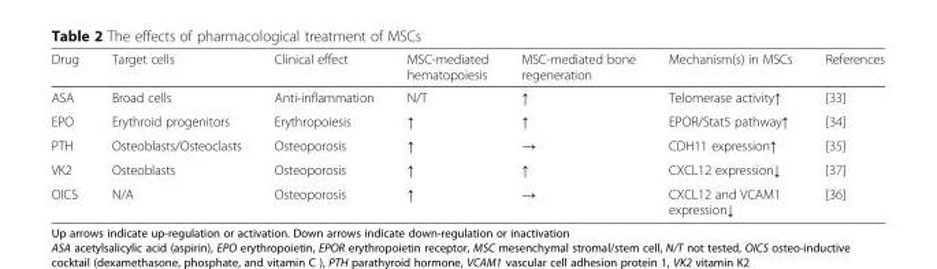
<table><thead><tr><td>Drug</td><td>Target cells</td><td>Clinical effect</td><td>MSC-mediated hematopoiesis</td><td>MSC-mediated bone regeneration</td><td>Mechanism(s) in MSCs</td><td>References</td></tr></thead><tbody><tr><td>ASA</td><td>Broad cells</td><td>Anti-inflammation</td><td>N/T</td><td>↑</td><td>Telomerase activity↑</td><td>[33]</td></tr><tr><td>EPO</td><td>Erythroid progenitors</td><td>Erythropoiesis</td><td>↑</td><td>↑</td><td>EPOR/Stat5 pathway↑</td><td>[34]</td></tr><tr><td>PTH</td><td>Osteoblasts/Osteoclasts</td><td>Osteoporosis</td><td>↑</td><td>→</td><td>CDH11 expression↑</td><td>[35]</td></tr><tr><td>VK2</td><td>Osteoblasts</td><td>Osteoporosis</td><td>↑</td><td>↑</td><td>CXCL12 expression↓</td><td>[37]</td></tr><tr><td>OICS</td><td>N/A</td><td>Osteoporosis</td><td>↑</td><td>→</td><td>CXCL12 and VCAM1 expression↓</td><td>[36]</td></tr></tbody></table>